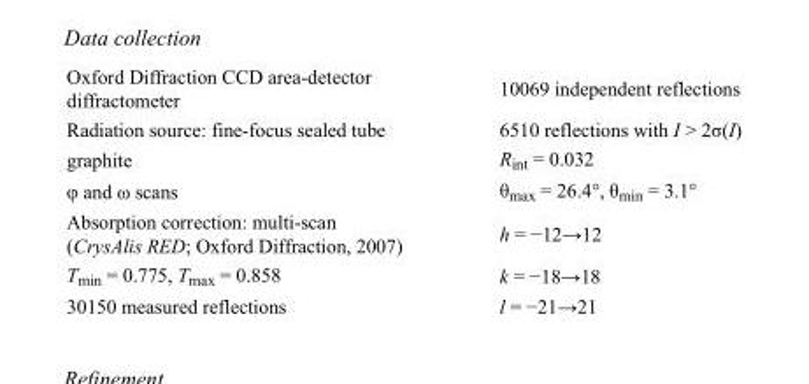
<table><tbody><tr><td>Oxford Diffraction CCD area-detector diffractometer</td><td>10069 independent reflections</td></tr><tr><td>Radiation source: fine-focus sealed tube</td><td>6510 reflections with I &gt; 2σ(I)</td></tr><tr><td>graphite</td><td>R<sub>int</sub> = 0.032</td></tr><tr><td>φ and ω scans</td><td>θ<sub>max</sub> = 26.4°, θ<sub>min</sub> = 3.1°</td></tr><tr><td>Absorption correction: multi-scan (CrysAlis RED; Oxford Diffraction, 2007)</td><td>h = −12→12</td></tr><tr><td>T<sub>min</sub> = 0.775, T<sub>max</sub> = 0.858</td><td>k = −18→18</td></tr><tr><td>30150 measured reflections</td><td>l = −21→21</td></tr></tbody></table>